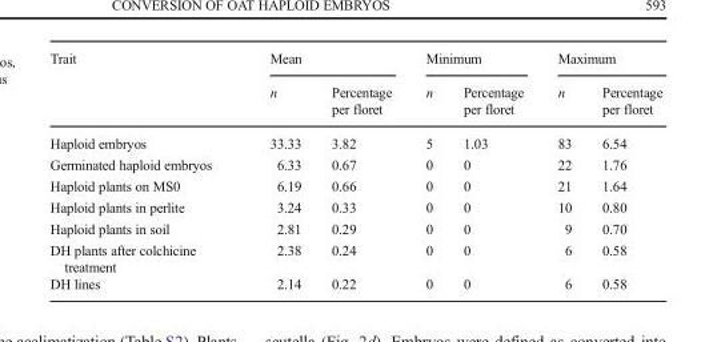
<table><thead><tr><td rowspan="2">Trait</td><td colspan="2">Mean</td><td colspan="2">Minimum</td><td colspan="2">Maximum</td></tr><tr><td>n</td><td>Percentage per floret</td><td>n</td><td>Percentage per floret</td><td>n</td><td>Percentage per floret</td></tr></thead><tbody><tr><td>Haploid embryos</td><td>33.33</td><td>3.82</td><td>5</td><td>1.03</td><td>83</td><td>6.54</td></tr><tr><td>Germinated haploid embryos</td><td>6.33</td><td>0.67</td><td>0</td><td>0</td><td>22</td><td>1.76</td></tr><tr><td>Haploid plants on MS0</td><td>6.19</td><td>0.66</td><td>0</td><td>0</td><td>21</td><td>1.64</td></tr><tr><td>Haploid plants in perlite</td><td>3.24</td><td>0.33</td><td>0</td><td>0</td><td>10</td><td>0.80</td></tr><tr><td>Haploid plants in soil</td><td>2.81</td><td>0.29</td><td>0</td><td>0</td><td>9</td><td>0.70</td></tr><tr><td>DH plants after colchicine treatment</td><td>2.38</td><td>0.24</td><td>0</td><td>0</td><td>6</td><td>0.58</td></tr><tr><td>DH lines</td><td>2.14</td><td>0.22</td><td>0</td><td>0</td><td>6</td><td>0.58</td></tr></tbody></table>